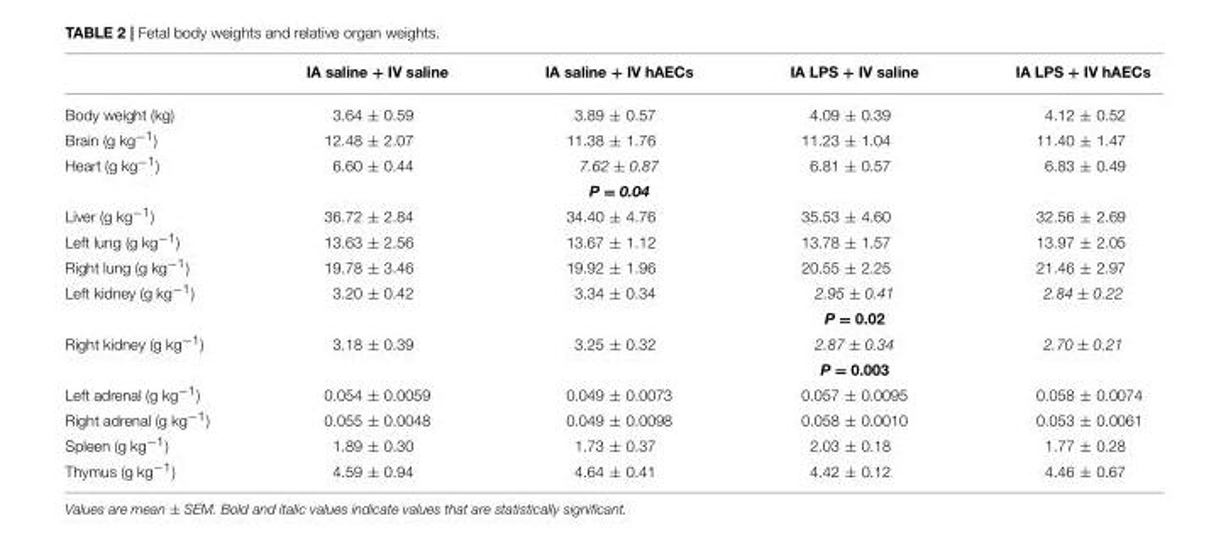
<table><thead><tr><td></td><td>IA saline + IV saline</td><td>IA saline + IV hAECs</td><td>IA LPS + IV saline</td><td>IA LPS + IV hAECs</td></tr></thead><tbody><tr><td>Body weight (kg)</td><td>3.64 ± 0.59</td><td>3.89 ± 0.57</td><td>4.09 ± 0.39</td><td>4.12 ± 0.52</td></tr><tr><td>Brain (g kg<sup>−1</sup>)</td><td>12.48 ± 2.07</td><td>11.38 ± 1.76</td><td>11.23 ± 1.04</td><td>11.40 ± 1.47</td></tr><tr><td rowspan="2">Heart (g kg<sup>−1</sup>)</td><td>6.60 ± 0.44</td><td>7.62 ± 0.87</td><td>6.81 ± 0.57</td><td>6.83 ± 0.49</td></tr><tr><td></td><td>P = 0.04</td><td></td><td></td></tr><tr><td>Liver (g kg<sup>−1</sup>)</td><td>36.72 ± 2.84</td><td>34.40 ± 4.76</td><td>35.53 ± 4.60</td><td>32.56 ± 2.69</td></tr><tr><td>Left lung (g kg<sup>−1</sup>)</td><td>13.63 ± 2.56</td><td>13.67 ± 1.12</td><td>13.78 ± 1.57</td><td>13.97 ± 2.05</td></tr><tr><td>Right lung (g kg<sup>−1</sup>)</td><td>19.78 ± 3.46</td><td>19.92 ± 1.96</td><td>20.55 ± 2.25</td><td>21.46 ± 2.97</td></tr><tr><td rowspan="2">Left kidney (g kg<sup>−1</sup>)</td><td>3.20 ± 0.42</td><td>3.34 ± 0.34</td><td>2.95 ± 0.41</td><td>2.84 ± 0.22</td></tr><tr><td></td><td></td><td>P = 0.02</td><td></td></tr><tr><td rowspan="2">Right kidney (g kg<sup>−1</sup>)</td><td>3.18 ± 0.39</td><td>3.25 ± 0.32</td><td>2.87 ± 0.34</td><td>2.70 ± 0.21</td></tr><tr><td></td><td></td><td>P = 0.003</td><td></td></tr><tr><td>Left adrenal (g kg<sup>−1</sup>)</td><td>0.054 ± 0.0059</td><td>0.049 ± 0.0073</td><td>0.057 ± 0.0095</td><td>0.058 ± 0.0074</td></tr><tr><td>Right adrenal (g kg<sup>−1</sup>)</td><td>0.055 ± 0.0048</td><td>0.049 ± 0.0098</td><td>0.058 ± 0.0010</td><td>0.053 ± 0.0061</td></tr><tr><td>Spleen (g kg<sup>−1</sup>)</td><td>1.89 ± 0.30</td><td>1.73 ± 0.37</td><td>2.03 ± 0.18</td><td>1.77 ± 0.28</td></tr><tr><td>Thymus (g kg<sup>−1</sup>)</td><td>4.59 ± 0.94</td><td>4.64 ± 0.41</td><td>4.42 ± 0.12</td><td>4.46 ± 0.67</td></tr></tbody></table>